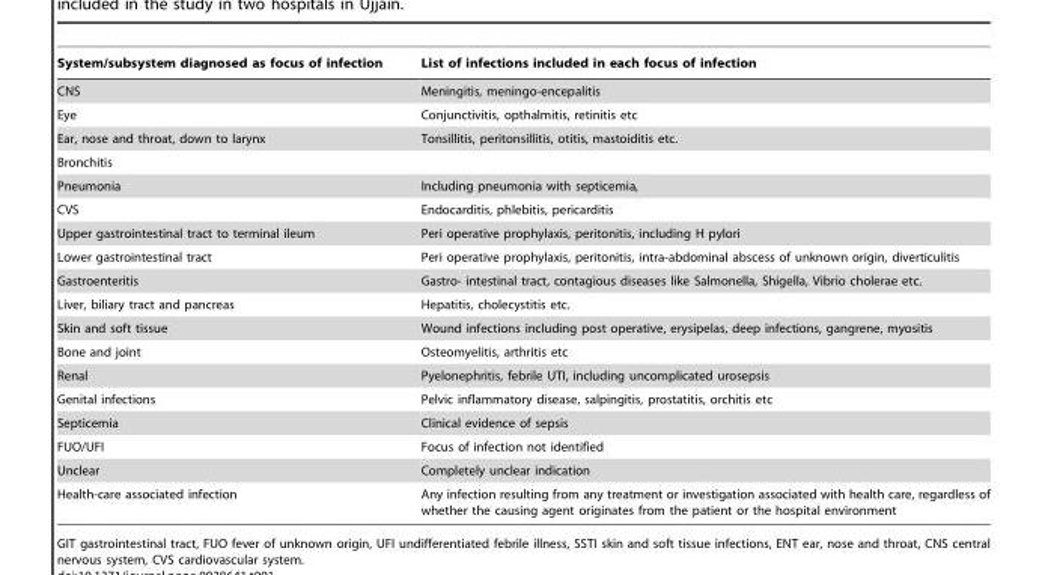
<table><thead><tr><td>System/subsystem diagnosed as focus of infection</td><td>List of infections included in each focus of infection</td></tr></thead><tbody><tr><td>CNS</td><td>Meningitis, meningo-encepalitis</td></tr><tr><td>Eye</td><td>Conjunctivitis, opthalmitis, retinitis etc</td></tr><tr><td>Ear, nose and throat, down to larynx</td><td>Tonsillitis, peritonsillitis, otitis, mastoiditis etc.</td></tr><tr><td colspan="2">Bronchitis</td></tr><tr><td>Pneumonia</td><td>Including pneumonia with septicemia,</td></tr><tr><td>CVS</td><td>Endocarditis, phlebitis, pericarditis</td></tr><tr><td>Upper gastrointestinal tract to terminal ileum</td><td>Peri operative prophylaxis, peritonitis, including H pylori</td></tr><tr><td>Lower gastrointestinal tract</td><td>Peri operative prophylaxis, peritonitis, intra-abdominal abscess of unknown origin, diverticulitis</td></tr><tr><td>Gastroenteritis</td><td>Gastro- intestinal tract, contagious diseases like Salmonella, Shigella, Vibrio cholerae etc.</td></tr><tr><td>Liver, biliary tract and pancreas</td><td>Hepatitis, cholecystitis etc.</td></tr><tr><td>Skin and soft tissue</td><td>Wound infections including post operative, erysipelas, deep infections, gangrene, myositis</td></tr><tr><td>Bone and joint</td><td>Osteomyelitis, arthritis etc</td></tr><tr><td>Renal</td><td>Pyelonephritis, febrile UTI, including uncomplicated urosepsis</td></tr><tr><td>Genital infections</td><td>Pelvic inflammatory disease, salpingitis, prostatitis, orchitis etc</td></tr><tr><td>Septicemia</td><td>Clinical evidence of sepsis</td></tr><tr><td>FUO/UFI</td><td>Focus of infection not identified</td></tr><tr><td>Unclear</td><td>Completely unclear indication</td></tr><tr><td>Health-care associated infection</td><td>Any infection resulting from any treatment or investigation associated with health care, regardless of whether the causing agent originates from the patient or the hospital environment</td></tr></tbody></table>